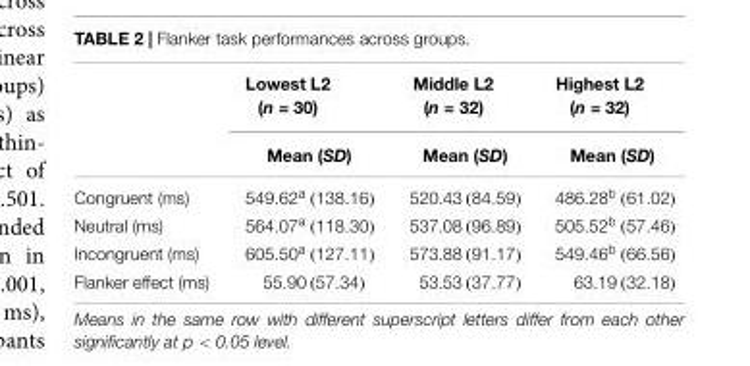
<table><thead><tr><td rowspan="2"></td><td rowspan="2">Lowest L2 (n = 30) Mean (SD)</td><td rowspan="2">Middle L2 (n = 32) Mean (SD)</td><td rowspan="2">Highest L2 (n = 32) Mean (SD)</td></tr><tr></tr></thead><tbody><tr><td>Congruent (ms)</td><td>549.62<sup>a</sup> (138.16)</td><td>520.43 (84.59)</td><td>486.28<sup>b</sup> (61.02)</td></tr><tr><td>Neutral (ms)</td><td>564.07<sup>a</sup> (118.30)</td><td>537.08 (96.89)</td><td>505.52<sup>b</sup> (57.46)</td></tr><tr><td>Incongruent (ms)</td><td>605.50<sup>a</sup> (127.11)</td><td>573.88 (91.17)</td><td>549.46<sup>b</sup> (66.56)</td></tr><tr><td>Flanker effect (ms)</td><td>55.90 (57.34)</td><td>53.53 (37.77)</td><td>63.19 (32.18)</td></tr></tbody></table>